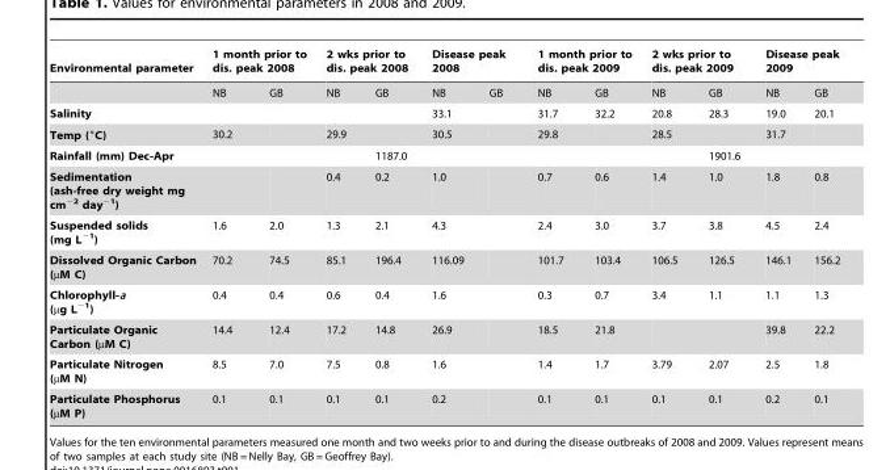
<table><thead><tr><td rowspan="2">Environmental parameter</td><td colspan="2">1 month prior to dis. peak 2008</td><td colspan="2">2 wks prior to dis. peak 2008</td><td colspan="2">Disease peak 2008</td><td colspan="2">1 month prior to dis. peak 2009</td><td colspan="2">2 wks prior to dis. peak 2009</td><td colspan="2">Disease peak 2009</td></tr><tr><td>NB</td><td>GB</td><td>NB</td><td>GB</td><td>NB</td><td>GB</td><td>NB</td><td>GB</td><td>NB</td><td>GB</td><td>NB</td><td>GB</td></tr></thead><tbody><tr><td>Salinity</td><td></td><td></td><td></td><td></td><td>33.1</td><td></td><td>31.7</td><td>32.2</td><td>20.8</td><td>28.3</td><td>19.0</td><td>20.1</td></tr><tr><td>Temp (°C)</td><td>30.2</td><td></td><td>29.9</td><td></td><td>30.5</td><td></td><td>29.8</td><td></td><td>28.5</td><td></td><td>31.7</td><td></td></tr><tr><td>Rainfall (mm) Dec-Apr</td><td></td><td></td><td></td><td>1187.0</td><td></td><td></td><td></td><td></td><td></td><td>1901.6</td><td></td><td></td></tr><tr><td>Sedimentation (ash-free dry weight mg cm<sup>−2</sup> day<sup>−1</sup>)</td><td></td><td></td><td>0.4</td><td>0.2</td><td>1.0</td><td></td><td>0.7</td><td>0.6</td><td>1.4</td><td>1.0</td><td>1.8</td><td>0.8</td></tr><tr><td>Suspended solids (mg L<sup>−1</sup>)</td><td>1.6</td><td>2.0</td><td>1.3</td><td>2.1</td><td>4.3</td><td></td><td>2.4</td><td>3.0</td><td>3.7</td><td>3.8</td><td>4.5</td><td>2.4</td></tr><tr><td>Dissolved Organic Carbon (µM C)</td><td>70.2</td><td>74.5</td><td>85.1</td><td>196.4</td><td>116.09</td><td></td><td>101.7</td><td>103.4</td><td>106.5</td><td>126.5</td><td>146.1</td><td>156.2</td></tr><tr><td>Chlorophyll-a (µg L<sup>−1</sup>)</td><td>0.4</td><td>0.4</td><td>0.6</td><td>0.4</td><td>1.6</td><td></td><td>0.3</td><td>0.7</td><td>3.4</td><td>1.1</td><td>1.1</td><td>1.3</td></tr><tr><td>Particulate Organic Carbon (µM C)</td><td>14.4</td><td>12.4</td><td>17.2</td><td>14.8</td><td>26.9</td><td></td><td>18.5</td><td>21.8</td><td></td><td></td><td>39.8</td><td>22.2</td></tr><tr><td>Particulate Nitrogen (µM N)</td><td>8.5</td><td>7.0</td><td>7.5</td><td>0.8</td><td>1.6</td><td></td><td>1.4</td><td>1.7</td><td>3.79</td><td>2.07</td><td>2.5</td><td>1.8</td></tr><tr><td>Particulate Phosphorus (µM P)</td><td>0.1</td><td>0.1</td><td>0.1</td><td>0.1</td><td>0.2</td><td></td><td>0.1</td><td>0.1</td><td>0.1</td><td>0.1</td><td>0.2</td><td>0.1</td></tr></tbody></table>